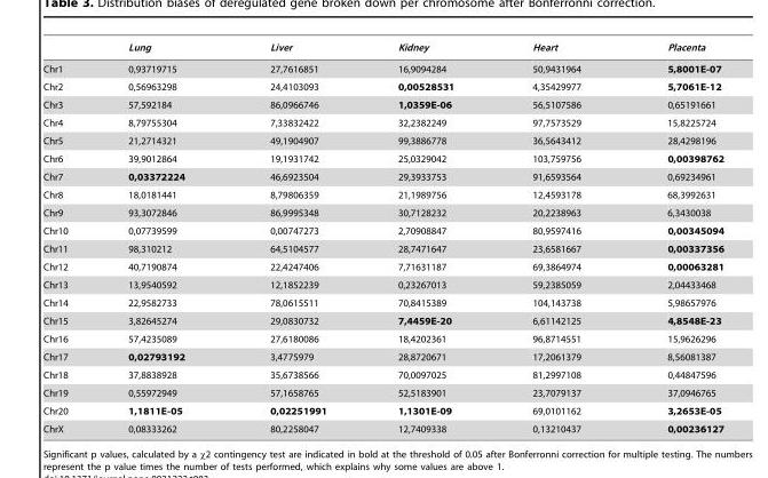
<table><thead><tr><td></td><td>Lung</td><td>Liver</td><td>Kidney</td><td>Heart</td><td>Placenta</td></tr></thead><tbody><tr><td>Chr1</td><td>0,93719715</td><td>27,7616851</td><td>16,9094284</td><td>50,9431964</td><td>5,8001E-07</td></tr><tr><td>Chr2</td><td>0,56963298</td><td>24,4103093</td><td>0,00528531</td><td>4,35429977</td><td>5,7061E-12</td></tr><tr><td>Chr3</td><td>57,592184</td><td>86,0966746</td><td>1,0359E-06</td><td>56,5107586</td><td>0,65191661</td></tr><tr><td>Chr4</td><td>8,79755304</td><td>7,33832422</td><td>32,2382249</td><td>97,7573529</td><td>15,8225724</td></tr><tr><td>Chr5</td><td>21,2714321</td><td>49,1904907</td><td>99,3886778</td><td>36,5643412</td><td>28,4298196</td></tr><tr><td>Chr6</td><td>39,9012864</td><td>19,1931742</td><td>25,0329042</td><td>103,759756</td><td>0,00398762</td></tr><tr><td>Chr7</td><td>0,03372224</td><td>46,6923504</td><td>29,3933753</td><td>91,6593564</td><td>0,69234961</td></tr><tr><td>Chr8</td><td>18,0181441</td><td>8,79806359</td><td>21,1989756</td><td>12,4593178</td><td>68,3992631</td></tr><tr><td>Chr9</td><td>93,3072846</td><td>86,9995348</td><td>30,7128232</td><td>20,2238963</td><td>6,3430038</td></tr><tr><td>Chr10</td><td>0,07739599</td><td>0,00747273</td><td>2,70908847</td><td>80,9597416</td><td>0,00345094</td></tr><tr><td>Chr11</td><td>98,310212</td><td>64,5104577</td><td>28,7471647</td><td>23,6581667</td><td>0,00337356</td></tr><tr><td>Chr12</td><td>40,7190874</td><td>22,4247406</td><td>7,71631187</td><td>69,3864974</td><td>0,00063281</td></tr><tr><td>Chr13</td><td>13,9540592</td><td>12,1852239</td><td>0,23267013</td><td>59,2385059</td><td>2,04433468</td></tr><tr><td>Chr14</td><td>22,9582733</td><td>78,0615511</td><td>70,8415389</td><td>104,143738</td><td>5,98657976</td></tr><tr><td>Chr15</td><td>3,82645274</td><td>29,0830732</td><td>7,4459E-20</td><td>6,61142125</td><td>4,8548E-23</td></tr><tr><td>Chr16</td><td>57,4235089</td><td>27,6180086</td><td>18,4202361</td><td>96,8714551</td><td>15,9626296</td></tr><tr><td>Chr17</td><td>0,02793192</td><td>3,4775979</td><td>28,8720671</td><td>17,2061379</td><td>8,56081387</td></tr><tr><td>Chr18</td><td>37,8838928</td><td>35,6738566</td><td>70,0097025</td><td>81,2997108</td><td>0,44847596</td></tr><tr><td>Chr19</td><td>0,55972949</td><td>57,1658765</td><td>52,5183901</td><td>23,7079137</td><td>37,0946765</td></tr><tr><td>Chr20</td><td>1,1811E-05</td><td>0,02251991</td><td>1,1301E-09</td><td>69,0101162</td><td>3,2653E-05</td></tr><tr><td>ChrX</td><td>0,08333262</td><td>80,2258047</td><td>12,7409338</td><td>0,13210437</td><td>0,00236127</td></tr></tbody></table>